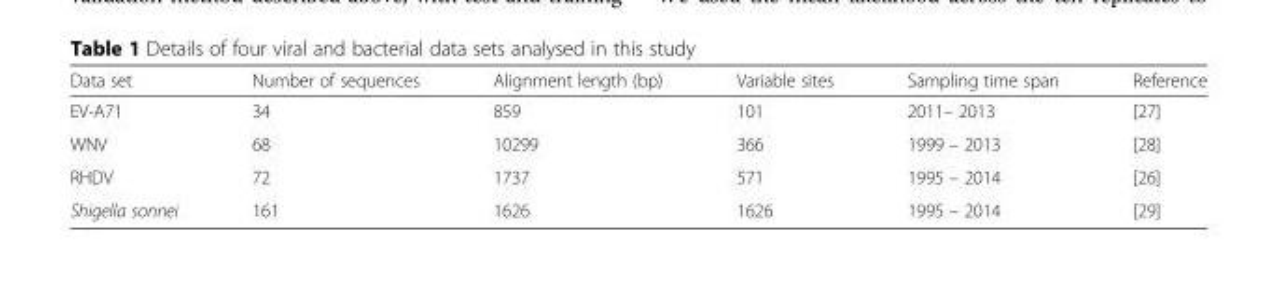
<table><thead><tr><td>Data set</td><td>Number of sequences</td><td>Alignment length (bp)</td><td>Variable sites</td><td>Sampling time span</td><td>Reference</td></tr></thead><tbody><tr><td>EV-A71</td><td>34</td><td>859</td><td>101</td><td>2011– 2013</td><td>[27]</td></tr><tr><td>WNV</td><td>68</td><td>10299</td><td>366</td><td>1999 – 2013</td><td>[28]</td></tr><tr><td>RHDV</td><td>72</td><td>1737</td><td>571</td><td>1995 – 2014</td><td>[26]</td></tr><tr><td>Shigella sonnei</td><td>161</td><td>1626</td><td>1626</td><td>1995 – 2014</td><td>[29]</td></tr></tbody></table>